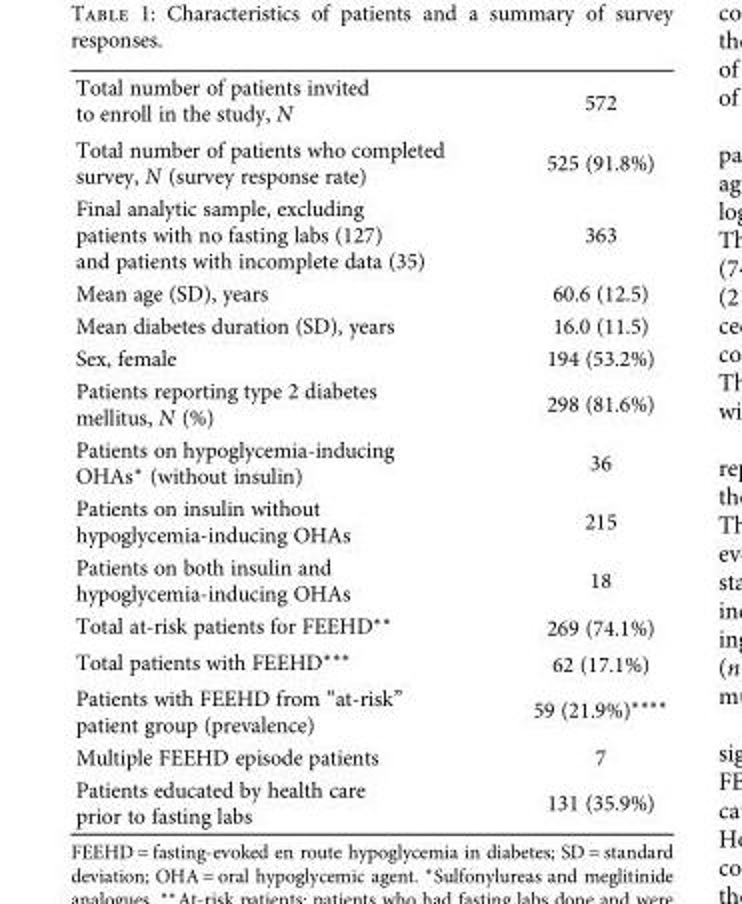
<table><tbody><tr><td>Total number of patients invited to enroll in the study, N</td><td>572</td></tr><tr><td>Total number of patients who completed survey, N (survey response rate)</td><td>525 (91.8%)</td></tr><tr><td>Final analytic sample, excluding patients with no fasting labs (127) and patients with incomplete data (35)</td><td>363</td></tr><tr><td>Mean age (SD), years</td><td>60.6 (12.5)</td></tr><tr><td>Mean diabetes duration (SD), years</td><td>16.0 (11.5)</td></tr><tr><td>Sex, female</td><td>194 (53.2%)</td></tr><tr><td>Patients reporting type 2 diabetes mellitus, N (%)</td><td>298 (81.6%)</td></tr><tr><td>Patients on hypoglycemia-inducing OHAs∗ (without insulin)</td><td>36</td></tr><tr><td>Patients on insulin without hypoglycemia-inducing OHAs</td><td>215</td></tr><tr><td>Patients on both insulin and hypoglycemia-inducing OHAs</td><td>18</td></tr><tr><td>Total at-risk patients for FEEHD∗∗</td><td>269 (74.1%)</td></tr><tr><td>Total patients with FEEHD∗∗∗</td><td>62 (17.1%)</td></tr><tr><td>Patients with FEEHD from “at-risk” patient group (prevalence)</td><td>59 (21.9%)∗∗∗∗</td></tr><tr><td>Multiple FEEHD episode patients</td><td>7</td></tr><tr><td>Patients educated by health care prior to fasting labs</td><td>131 (35.9%)</td></tr></tbody></table>